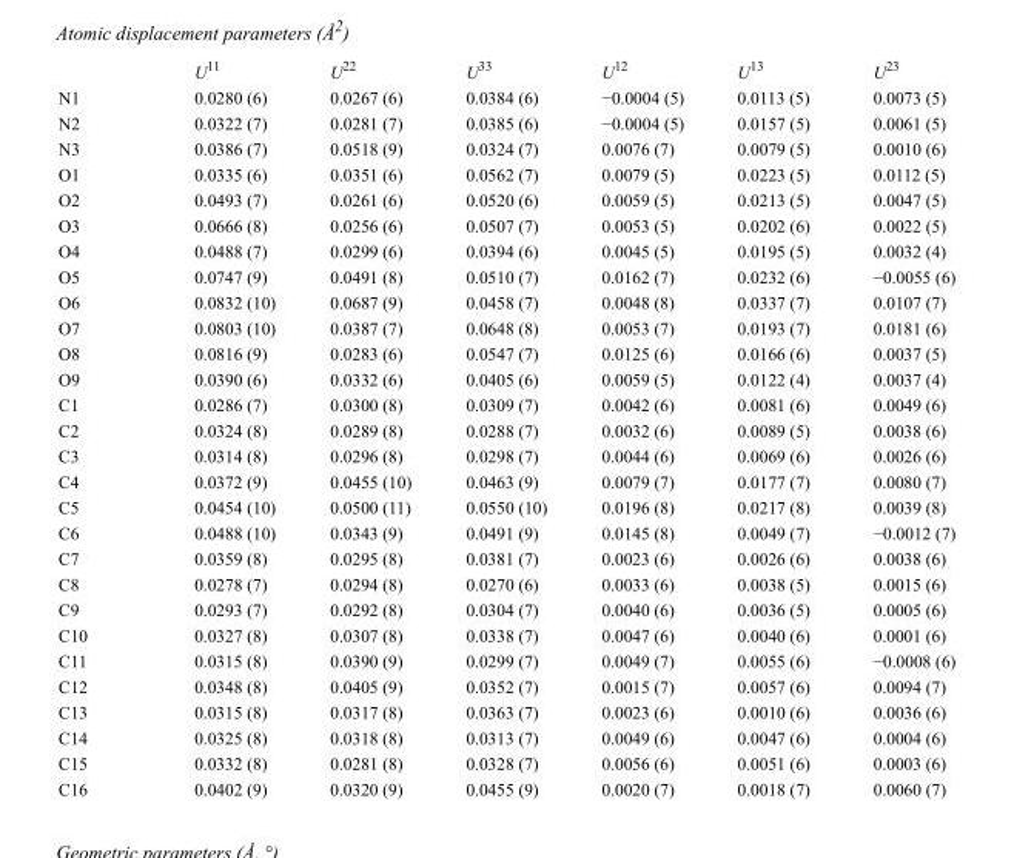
<table><thead><tr><td></td><td>U<sup>11</sup></td><td>U<sup>22</sup></td><td>U<sup>33</sup></td><td>U<sup>12</sup></td><td>U<sup>13</sup></td><td>U<sup>23</sup></td></tr></thead><tbody><tr><td>N1</td><td>0.0280 (6)</td><td>0.0267 (6)</td><td>0.0384 (6)</td><td>−0.0004 (5)</td><td>0.0113 (5)</td><td>0.0073 (5)</td></tr><tr><td>N2</td><td>0.0322 (7)</td><td>0.0281 (7)</td><td>0.0385 (6)</td><td>−0.0004 (5)</td><td>0.0157 (5)</td><td>0.0061 (5)</td></tr><tr><td>N3</td><td>0.0386 (7)</td><td>0.0518 (9)</td><td>0.0324 (7)</td><td>0.0076 (7)</td><td>0.0079 (5)</td><td>0.0010 (6)</td></tr><tr><td>O1</td><td>0.0335 (6)</td><td>0.0351 (6)</td><td>0.0562 (7)</td><td>0.0079 (5)</td><td>0.0223 (5)</td><td>0.0112 (5)</td></tr><tr><td>O2</td><td>0.0493 (7)</td><td>0.0261 (6)</td><td>0.0520 (6)</td><td>0.0059 (5)</td><td>0.0213 (5)</td><td>0.0047 (5)</td></tr><tr><td>O3</td><td>0.0666 (8)</td><td>0.0256 (6)</td><td>0.0507 (7)</td><td>0.0053 (5)</td><td>0.0202 (6)</td><td>0.0022 (5)</td></tr><tr><td>O4</td><td>0.0488 (7)</td><td>0.0299 (6)</td><td>0.0394 (6)</td><td>0.0045 (5)</td><td>0.0195 (5)</td><td>0.0032 (4)</td></tr><tr><td>O5</td><td>0.0747 (9)</td><td>0.0491 (8)</td><td>0.0510 (7)</td><td>0.0162 (7)</td><td>0.0232 (6)</td><td>−0.0055 (6)</td></tr><tr><td>O6</td><td>0.0832 (10)</td><td>0.0687 (9)</td><td>0.0458 (7)</td><td>0.0048 (8)</td><td>0.0337 (7)</td><td>0.0107 (7)</td></tr><tr><td>O7</td><td>0.0803 (10)</td><td>0.0387 (7)</td><td>0.0648 (8)</td><td>0.0053 (7)</td><td>0.0193 (7)</td><td>0.0181 (6)</td></tr><tr><td>O8</td><td>0.0816 (9)</td><td>0.0283 (6)</td><td>0.0547 (7)</td><td>0.0125 (6)</td><td>0.0166 (6)</td><td>0.0037 (5)</td></tr><tr><td>O9</td><td>0.0390 (6)</td><td>0.0332 (6)</td><td>0.0405 (6)</td><td>0.0059 (5)</td><td>0.0122 (4)</td><td>0.0037 (4)</td></tr><tr><td>C1</td><td>0.0286 (7)</td><td>0.0300 (8)</td><td>0.0309 (7)</td><td>0.0042 (6)</td><td>0.0081 (6)</td><td>0.0049 (6)</td></tr><tr><td>C2</td><td>0.0324 (8)</td><td>0.0289 (8)</td><td>0.0288 (7)</td><td>0.0032 (6)</td><td>0.0089 (5)</td><td>0.0038 (6)</td></tr><tr><td>C3</td><td>0.0314 (8)</td><td>0.0296 (8)</td><td>0.0298 (7)</td><td>0.0044 (6)</td><td>0.0069 (6)</td><td>0.0026 (6)</td></tr><tr><td>C4</td><td>0.0372 (9)</td><td>0.0455 (10)</td><td>0.0463 (9)</td><td>0.0079 (7)</td><td>0.0177 (7)</td><td>0.0080 (7)</td></tr><tr><td>C5</td><td>0.0454 (10)</td><td>0.0500 (11)</td><td>0.0550 (10)</td><td>0.0196 (8)</td><td>0.0217 (8)</td><td>0.0039 (8)</td></tr><tr><td>C6</td><td>0.0488 (10)</td><td>0.0343 (9)</td><td>0.0491 (9)</td><td>0.0145 (8)</td><td>0.0049 (7)</td><td>−0.0012 (7)</td></tr><tr><td>C7</td><td>0.0359 (8)</td><td>0.0295 (8)</td><td>0.0381 (7)</td><td>0.0023 (6)</td><td>0.0026 (6)</td><td>0.0038 (6)</td></tr><tr><td>C8</td><td>0.0278 (7)</td><td>0.0294 (8)</td><td>0.0270 (6)</td><td>0.0033 (6)</td><td>0.0038 (5)</td><td>0.0015 (6)</td></tr><tr><td>C9</td><td>0.0293 (7)</td><td>0.0292 (8)</td><td>0.0304 (7)</td><td>0.0040 (6)</td><td>0.0036 (5)</td><td>0.0005 (6)</td></tr><tr><td>C10</td><td>0.0327 (8)</td><td>0.0307 (8)</td><td>0.0338 (7)</td><td>0.0047 (6)</td><td>0.0040 (6)</td><td>0.0001 (6)</td></tr><tr><td>C11</td><td>0.0315 (8)</td><td>0.0390 (9)</td><td>0.0299 (7)</td><td>0.0049 (7)</td><td>0.0055 (6)</td><td>−0.0008 (6)</td></tr><tr><td>C12</td><td>0.0348 (8)</td><td>0.0405 (9)</td><td>0.0352 (7)</td><td>0.0015 (7)</td><td>0.0057 (6)</td><td>0.0094 (7)</td></tr><tr><td>C13</td><td>0.0315 (8)</td><td>0.0317 (8)</td><td>0.0363 (7)</td><td>0.0023 (6)</td><td>0.0010 (6)</td><td>0.0036 (6)</td></tr><tr><td>C14</td><td>0.0325 (8)</td><td>0.0318 (8)</td><td>0.0313 (7)</td><td>0.0049 (6)</td><td>0.0047 (6)</td><td>0.0004 (6)</td></tr><tr><td>C15</td><td>0.0332 (8)</td><td>0.0281 (8)</td><td>0.0328 (7)</td><td>0.0056 (6)</td><td>0.0051 (6)</td><td>0.0003 (6)</td></tr><tr><td>C16</td><td>0.0402 (9)</td><td>0.0320 (9)</td><td>0.0455 (9)</td><td>0.0020 (7)</td><td>0.0018 (7)</td><td>0.0060 (7)</td></tr></tbody></table>